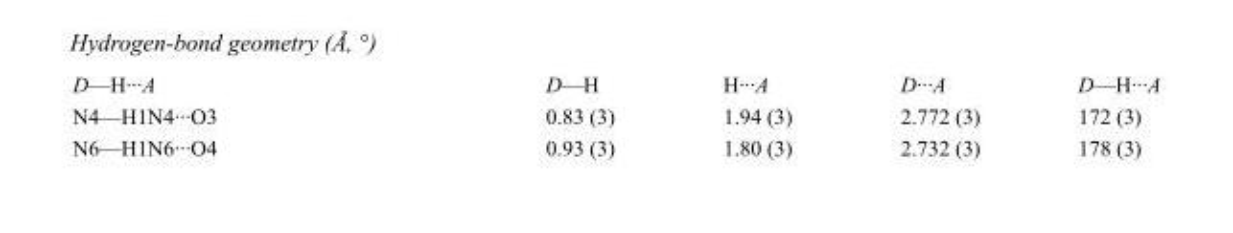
<table><tbody><tr><td>D—H···A</td><td>D—H</td><td>H···A</td><td>D···A</td><td>D—H···A</td></tr><tr><td>N4—H1N4···O3</td><td>0.83 (3)</td><td>1.94 (3)</td><td>2.772 (3)</td><td>172 (3)</td></tr><tr><td>N6—H1N6···O4</td><td>0.93 (3)</td><td>1.80 (3)</td><td>2.732 (3)</td><td>178 (3)</td></tr></tbody></table>